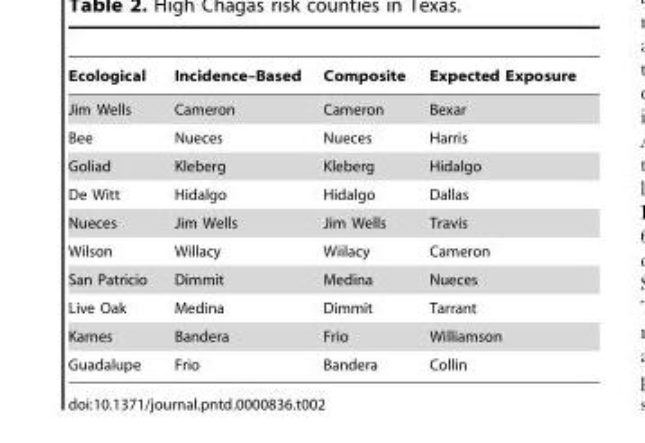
<table><thead><tr><td>Ecological</td><td>Incidence–Based</td><td>Composite</td><td>Expected Exposure</td></tr></thead><tbody><tr><td>Jim Wells</td><td>Cameron</td><td>Cameron</td><td>Bexar</td></tr><tr><td>Bee</td><td>Nueces</td><td>Nueces</td><td>Harris</td></tr><tr><td>Goliad</td><td>Kleberg</td><td>Kleberg</td><td>Hidalgo</td></tr><tr><td>De Witt</td><td>Hidalgo</td><td>Hidalgo</td><td>Dallas</td></tr><tr><td>Nueces</td><td>Jim Wells</td><td>Jim Wells</td><td>Travis</td></tr><tr><td>Wilson</td><td>Willacy</td><td>Wiilacy</td><td>Cameron</td></tr><tr><td>San Patricio</td><td>Dimmit</td><td>Medina</td><td>Nueces</td></tr><tr><td>Live Oak</td><td>Medina</td><td>Dimmit</td><td>Tarrant</td></tr><tr><td>Karnes</td><td>Bandera</td><td>Frio</td><td>Williamson</td></tr><tr><td>Guadalupe</td><td>Frio</td><td>Bandera</td><td>Collin</td></tr></tbody></table>